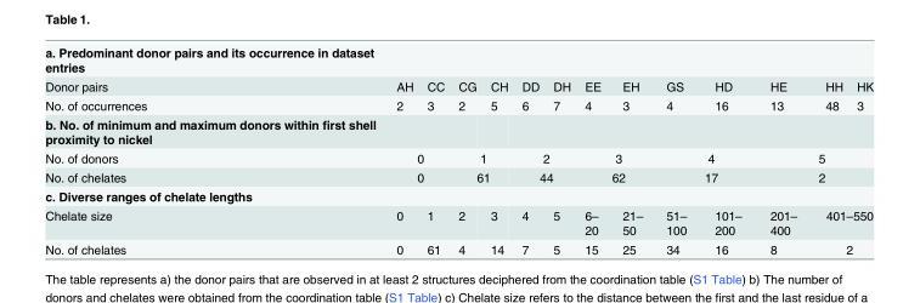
<table><tbody><tr><td colspan="14">a. Predominant donor pairs and its occurrence in dataset entries</td></tr><tr><td>Donor pairs</td><td>AH</td><td>CC</td><td>CG</td><td>CH</td><td>DD</td><td>DH</td><td>EE</td><td>EH</td><td>GS</td><td>HD</td><td>HE</td><td>HH</td><td>HK</td></tr><tr><td>No. of occurrences</td><td>2</td><td>3</td><td>2</td><td>5</td><td>6</td><td>7</td><td>4</td><td>3</td><td>4</td><td>16</td><td>13</td><td>48</td><td>3</td></tr><tr><td colspan="14">b. No. of minimum and maximum donors within first shell proximity to nickel</td></tr><tr><td>No. of donors</td><td colspan="2">0</td><td colspan="2">1</td><td colspan="2">2</td><td colspan="2">3</td><td colspan="2">4</td><td colspan="3">5</td></tr><tr><td>No. of chelates</td><td colspan="2">0</td><td colspan="2">61</td><td colspan="2">44</td><td colspan="2">62</td><td colspan="2">17</td><td colspan="3">2</td></tr><tr><td colspan="14">c. Diverse ranges of chelate lengths</td></tr><tr><td>Chelate size</td><td>0</td><td>1</td><td>2</td><td>3</td><td>4</td><td>5</td><td>6– 20</td><td>21– 50</td><td>51– 100</td><td>101– 200</td><td>201– 400</td><td colspan="2">401–550</td></tr><tr><td>No. of chelates</td><td>0</td><td>61</td><td>4</td><td>14</td><td>7</td><td>5</td><td>15</td><td>25</td><td>34</td><td>16</td><td>8</td><td colspan="2">2</td></tr></tbody></table>